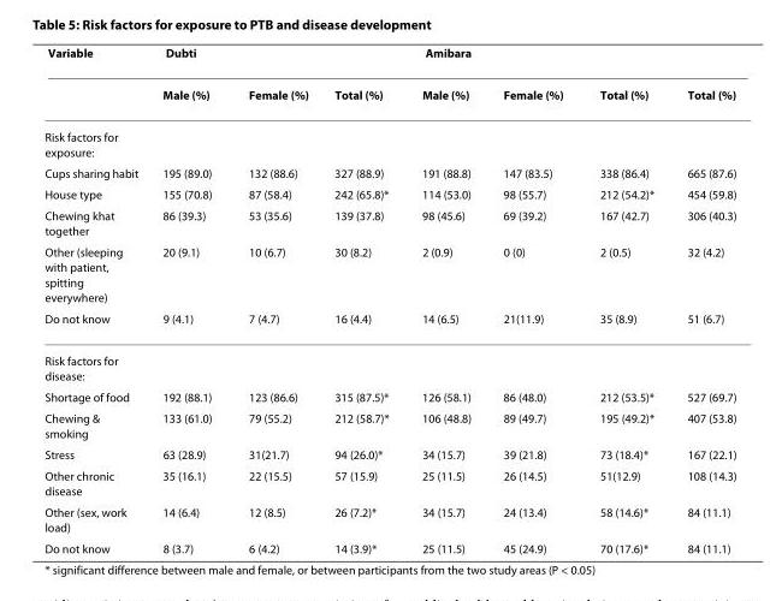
<table><thead><tr><td rowspan="2">Variable</td><td colspan="3">Dubti</td><td colspan="3">Amibara</td><td rowspan="2">Total (%)</td></tr><tr><td>Male (%)</td><td>Female (%)</td><td>Total (%)</td><td>Male (%)</td><td>Female (%)</td><td>Total (%)</td></tr></thead><tbody><tr><td colspan="8">Risk factors for exposure:</td></tr><tr><td>Cups sharing habit</td><td>195 (89.0)</td><td>132 (88.6)</td><td>327 (88.9)</td><td>191 (88.8)</td><td>147 (83.5)</td><td>338 (86.4)</td><td>665 (87.6)</td></tr><tr><td>House type</td><td>155 (70.8)</td><td>87 (58.4)</td><td>242 (65.8)*</td><td>114 (53.0)</td><td>98 (55.7)</td><td>212 (54.2)*</td><td>454 (59.8)</td></tr><tr><td>Chewing khat together</td><td>86 (39.3)</td><td>53 (35.6)</td><td>139 (37.8)</td><td>98 (45.6)</td><td>69 (39.2)</td><td>167 (42.7)</td><td>306 (40.3)</td></tr><tr><td>Other (sleeping with patient, spitting everywhere)</td><td>20 (9.1)</td><td>10 (6.7)</td><td>30 (8.2)</td><td>2 (0.9)</td><td>0 (0)</td><td>2 (0.5)</td><td>32 (4.2)</td></tr><tr><td>Do not know</td><td>9 (4.1)</td><td>7 (4.7)</td><td>16 (4.4)</td><td>14 (6.5)</td><td>21(11.9)</td><td>35 (8.9)</td><td>51 (6.7)</td></tr><tr><td colspan="8">Risk factors for disease:</td></tr><tr><td>Shortage of food</td><td>192 (88.1)</td><td>123 (86.6)</td><td>315 (87.5)*</td><td>126 (58.1)</td><td>86 (48.0)</td><td>212 (53.5)*</td><td>527 (69.7)</td></tr><tr><td>Chewing &amp; smoking</td><td>133 (61.0)</td><td>79 (55.2)</td><td>212 (58.7)*</td><td>106 (48.8)</td><td>89 (49.7)</td><td>195 (49.2)*</td><td>407 (53.8)</td></tr><tr><td>Stress</td><td>63 (28.9)</td><td>31(21.7)</td><td>94 (26.0)*</td><td>34 (15.7)</td><td>39 (21.8)</td><td>73 (18.4)*</td><td>167 (22.1)</td></tr><tr><td>Other chronic disease</td><td>35 (16.1)</td><td>22 (15.5)</td><td>57 (15.9)</td><td>25 (11.5)</td><td>26 (14.5)</td><td>51(12.9)</td><td>108 (14.3)</td></tr><tr><td>Other (sex, work load)</td><td>14 (6.4)</td><td>12 (8.5)</td><td>26 (7.2)*</td><td>34 (15.7)</td><td>24 (13.4)</td><td>58 (14.6)*</td><td>84 (11.1)</td></tr><tr><td>Do not know</td><td>8 (3.7)</td><td>6 (4.2)</td><td>14 (3.9)*</td><td>25 (11.5)</td><td>45 (24.9)</td><td>70 (17.6)*</td><td>84 (11.1)</td></tr></tbody></table>